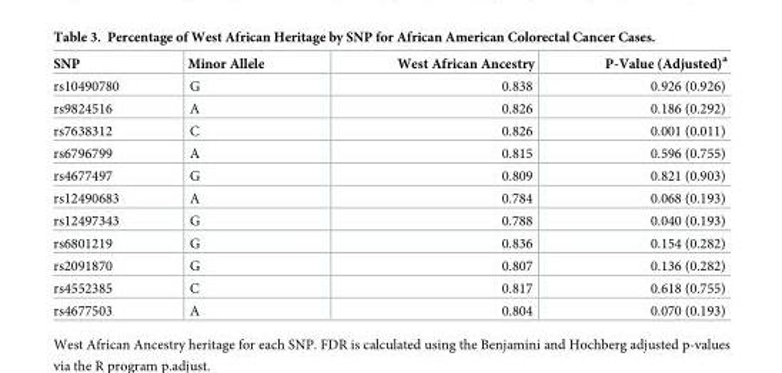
<table><thead><tr><td>SNP</td><td>Minor Allele</td><td>West African Ancestry</td><td>P-Value (Adjusted)<sup>a</sup></td></tr></thead><tbody><tr><td>rs10490780</td><td>G</td><td>0.838</td><td>0.926 (0.926)</td></tr><tr><td>rs9824516</td><td>A</td><td>0.826</td><td>0.186 (0.292)</td></tr><tr><td>rs7638312</td><td>C</td><td>0.826</td><td>0.001 (0.011)</td></tr><tr><td>rs6796799</td><td>A</td><td>0.815</td><td>0.596 (0.755)</td></tr><tr><td>rs4677497</td><td>G</td><td>0.809</td><td>0.821 (0.903)</td></tr><tr><td>rs12490683</td><td>A</td><td>0.784</td><td>0.068 (0.193)</td></tr><tr><td>rs12497343</td><td>G</td><td>0.788</td><td>0.040 (0.193)</td></tr><tr><td>rs6801219</td><td>G</td><td>0.836</td><td>0.154 (0.282)</td></tr><tr><td>rs2091870</td><td>G</td><td>0.807</td><td>0.136 (0.282)</td></tr><tr><td>rs4552385</td><td>C</td><td>0.817</td><td>0.618 (0.755)</td></tr><tr><td>rs4677503</td><td>A</td><td>0.804</td><td>0.070 (0.193)</td></tr></tbody></table>